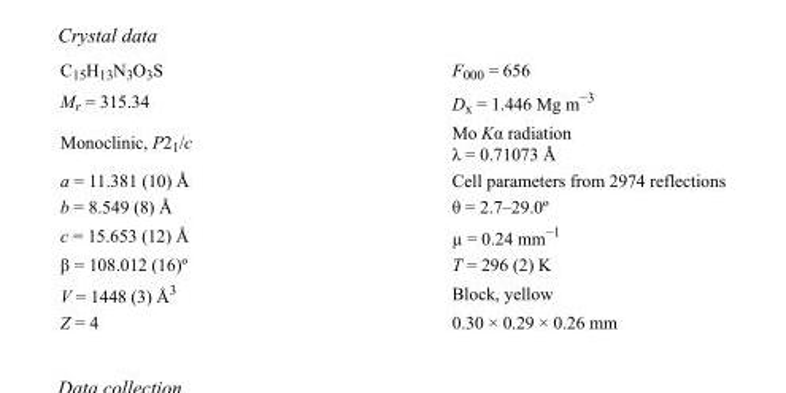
<table><tbody><tr><td>C<sub>15</sub>H<sub>13</sub>N<sub>3</sub>O<sub>3</sub>S</td><td>F000 = 656</td></tr><tr><td>M<sub>r</sub> = 315.34</td><td>D<sub>x</sub> = 1.446 Mg m<sup>−3</sup></td></tr><tr><td>Monoclinic, P2<sub>1</sub>/c</td><td>Mo Kα radiation λ = 0.71073 Å</td></tr><tr><td>a = 11.381 (10) Å</td><td>Cell parameters from 2974 reflections</td></tr><tr><td>b = 8.549 (8) Å</td><td>θ = 2.7–29.0º</td></tr><tr><td>c = 15.653 (12) Å</td><td>µ = 0.24 mm<sup>−1</sup></td></tr><tr><td>β = 108.012 (16)º</td><td>T = 296 (2) K</td></tr><tr><td>V = 1448 (3) Å<sup>3</sup></td><td>Block, yellow</td></tr><tr><td>Z = 4</td><td>0.30 × 0.29 × 0.26 mm</td></tr></tbody></table>